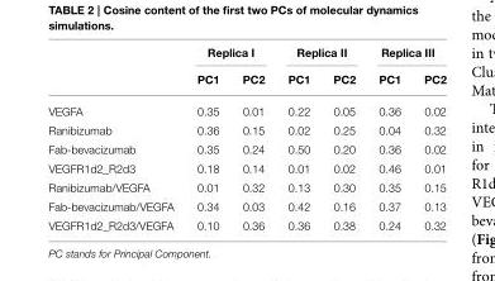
<table><thead><tr><td rowspan="2"></td><td colspan="2">Replica I</td><td colspan="2">Replica II</td><td colspan="2">Replica III</td></tr><tr><td>PC1</td><td>PC2</td><td>PC1</td><td>PC2</td><td>PC1</td><td>PC2</td></tr></thead><tbody><tr><td>VEGFA</td><td>0.35</td><td>0.01</td><td>0.22</td><td>0.05</td><td>0.36</td><td>0.02</td></tr><tr><td>Ranibizumab</td><td>0.36</td><td>0.15</td><td>0.02</td><td>0.25</td><td>0.04</td><td>0.32</td></tr><tr><td>Fab-bevacizumab</td><td>0.35</td><td>0.24</td><td>0.50</td><td>0.20</td><td>0.36</td><td>0.02</td></tr><tr><td>VEGFR1d2_R2d3</td><td>0.18</td><td>0.14</td><td>0.01</td><td>0.02</td><td>0.46</td><td>0.01</td></tr><tr><td>Ranibizumab/VEGFA</td><td>0.01</td><td>0.32</td><td>0.13</td><td>0.30</td><td>0.35</td><td>0.15</td></tr><tr><td>Fab-bevacizumab/VEGFA</td><td>0.34</td><td>0.03</td><td>0.42</td><td>0.16</td><td>0.37</td><td>0.13</td></tr><tr><td>VEGFR1d2_R2d3/VEGFA</td><td>0.10</td><td>0.36</td><td>0.36</td><td>0.38</td><td>0.24</td><td>0.32</td></tr></tbody></table>